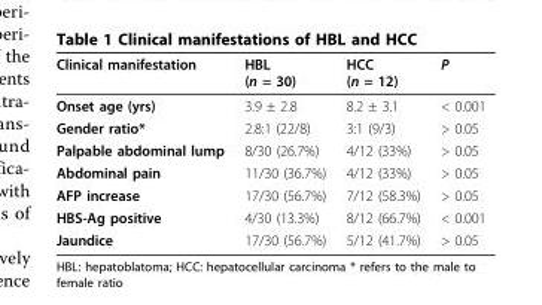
<table><thead><tr><td>Clinical manifestation</td><td>HBL (n = 30)</td><td>HCC (n = 12)</td><td>P</td></tr></thead><tbody><tr><td>Onset age (yrs)</td><td>3.9 ± 2.8</td><td>8.2 ± 3.1</td><td>&lt; 0.001</td></tr><tr><td>Gender ratio*</td><td>2.8:1 (22/8)</td><td>3:1 (9/3)</td><td>&gt; 0.05</td></tr><tr><td>Palpable abdominal lump</td><td>8/30 (26.7%)</td><td>4/12 (33%)</td><td>&gt; 0.05</td></tr><tr><td>Abdominal pain</td><td>11/30 (36.7%)</td><td>4/12 (33%)</td><td>&gt; 0.05</td></tr><tr><td>AFP increase</td><td>17/30 (56.7%)</td><td>7/12 (58.3%)</td><td>&gt; 0.05</td></tr><tr><td>HBS-Ag positive</td><td>4/30 (13.3%)</td><td>8/12 (66.7%)</td><td>&lt; 0.001</td></tr><tr><td>Jaundice</td><td>17/30 (56.7%)</td><td>5/12 (41.7%)</td><td>&gt; 0.05</td></tr></tbody></table>